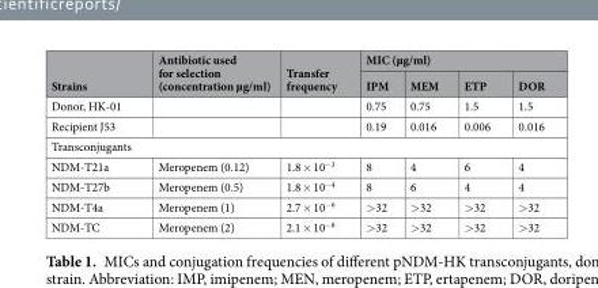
<table><thead><tr><td rowspan="2">Strains</td><td rowspan="2">Antibiotic used for selection (concentration µg/ml)</td><td rowspan="2">Transfer frequency</td><td colspan="4">MIC (µg/ml)</td></tr><tr><td>IPM</td><td>MEM</td><td>ETP</td><td>DOR</td></tr></thead><tbody><tr><td>Donor, HK-01</td><td></td><td></td><td>0.75</td><td>0.75</td><td>1.5</td><td>1.5</td></tr><tr><td>Recipient J53</td><td></td><td></td><td>0.19</td><td>0.016</td><td>0.006</td><td>0.016</td></tr><tr><td colspan="7">Transconjugants</td></tr><tr><td>NDM-T21a</td><td>Meropenem (0.12)</td><td>1.8 × 10<sup>−3</sup></td><td>8</td><td>4</td><td>6</td><td>4</td></tr><tr><td>NDM-T27b</td><td>Meropenem (0.5)</td><td>1.8 × 10<sup>−4</sup></td><td>8</td><td>6</td><td>4</td><td>4</td></tr><tr><td>NDM-T4a</td><td>Meropenem (1)</td><td>2.7 × 10<sup>−6</sup></td><td>&gt;32</td><td>&gt;32</td><td>&gt;32</td><td>&gt;32</td></tr><tr><td>NDM-TC</td><td>Meropenem (2)</td><td>2.1 × 10<sup>−8</sup></td><td>&gt;32</td><td>&gt;32</td><td>&gt;32</td><td>&gt;32</td></tr></tbody></table>